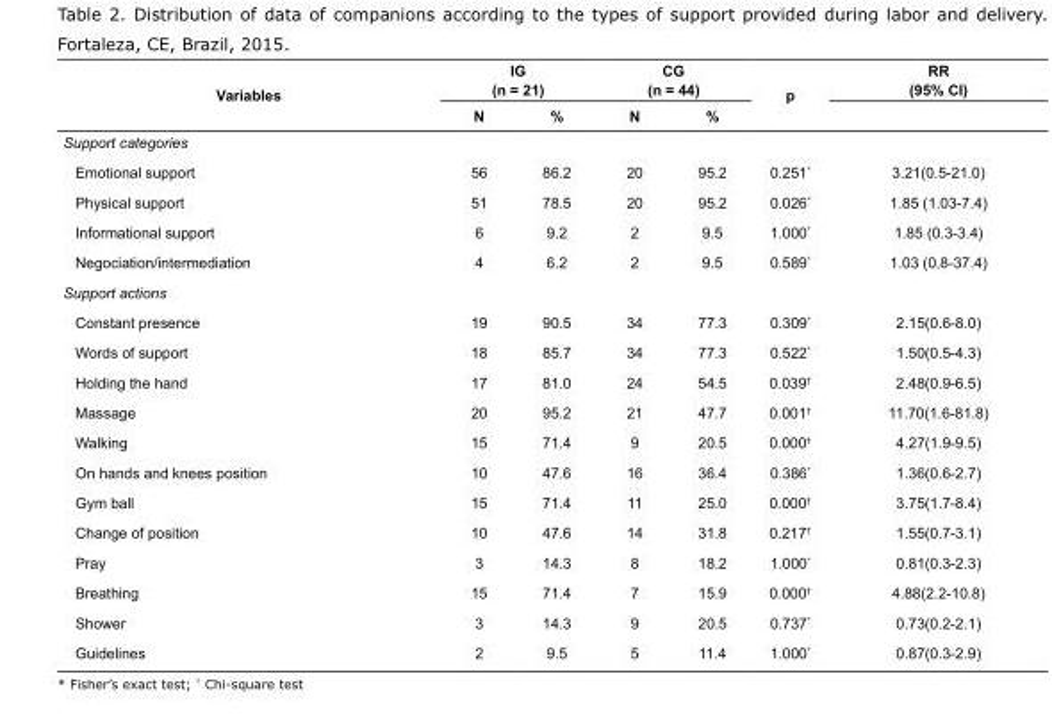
<table><tbody><tr><td rowspan="2">Variables</td><td colspan="2">IG (n = 21)</td><td colspan="2">CG (n = 44)</td><td rowspan="2">p</td><td>RR (95% CI)</td></tr><tr><td>N</td><td>%</td><td>N</td><td>%</td><td></td></tr><tr><td colspan="7">Support categories</td></tr><tr><td>Emotional support</td><td>56</td><td>86.2</td><td>20</td><td>95.2</td><td>0.251*</td><td>3.21(0.5-21.0)</td></tr><tr><td>Physical support</td><td>51</td><td>78.5</td><td>20</td><td>95.2</td><td>0.026*</td><td>1.85 (1.03-7.4)</td></tr><tr><td>Informational support</td><td>6</td><td>9.2</td><td>2</td><td>9.5</td><td>1.000*</td><td>1.85 (0.3-3.4)</td></tr><tr><td>Negociation/intermediation</td><td>4</td><td>6.2</td><td>2</td><td>9.5</td><td>0.589*</td><td>1.03 (0.8-37.4)</td></tr><tr><td colspan="7">Support actions</td></tr><tr><td>Constant presence</td><td>19</td><td>90.5</td><td>34</td><td>77.3</td><td>0.309*</td><td>2.15(0.6-8.0)</td></tr><tr><td>Words of support</td><td>18</td><td>85.7</td><td>34</td><td>77.3</td><td>0.522*</td><td>1.50(0.5-4.3)</td></tr><tr><td>Holding the hand</td><td>17</td><td>81.0</td><td>24</td><td>54.5</td><td>0.039<sup>†</sup></td><td>2.48(0.9-6.5)</td></tr><tr><td>Massage</td><td>20</td><td>95.2</td><td>21</td><td>47.7</td><td>0.001<sup>†</sup></td><td>11.70(1.6-81.8)</td></tr><tr><td>Walking</td><td>15</td><td>71.4</td><td>9</td><td>20.5</td><td>0.000<sup>†</sup></td><td>4.27(1.9-9.5)</td></tr><tr><td>On hands and knees position</td><td>10</td><td>47.6</td><td>16</td><td>36.4</td><td>0.386*</td><td>1.36(0.6-2.7)</td></tr><tr><td>Gym ball</td><td>15</td><td>71.4</td><td>11</td><td>25.0</td><td>0.000<sup>†</sup></td><td>3.75(1.7-8.4)</td></tr><tr><td>Change of position</td><td>10</td><td>47.6</td><td>14</td><td>31.8</td><td>0.217<sup>†</sup></td><td>1.55(0.7-3.1)</td></tr><tr><td>Pray</td><td>3</td><td>14.3</td><td>8</td><td>18.2</td><td>1.000*</td><td>0.81(0.3-2.3)</td></tr><tr><td>Breathing</td><td>15</td><td>71.4</td><td>7</td><td>15.9</td><td>0.000<sup>†</sup></td><td>4.88(2.2-10.8)</td></tr><tr><td>Shower</td><td>3</td><td>14.3</td><td>9</td><td>20.5</td><td>0.737*</td><td>0.73(0.2-2.1)</td></tr><tr><td>Guidelines</td><td>2</td><td>9.5</td><td>5</td><td>11.4</td><td>1.000*</td><td>0.87(0.3-2.9)</td></tr></tbody></table>